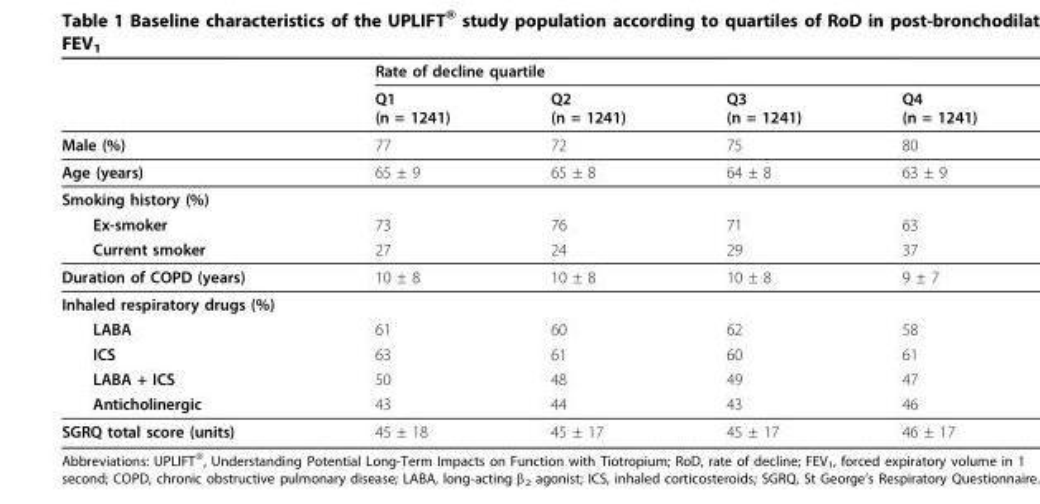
<table><thead><tr><td rowspan="2"></td><td colspan="4">Rate of decline quartile</td></tr><tr><td>Q1 (n = 1241)</td><td>Q2 (n = 1241)</td><td>Q3 (n = 1241)</td><td>Q4 (n = 1241)</td></tr></thead><tbody><tr><td>Male (%)</td><td>77</td><td>72</td><td>75</td><td>80</td></tr><tr><td>Age (years)</td><td>65 ± 9</td><td>65 ± 8</td><td>64 ± 8</td><td>63 ± 9</td></tr><tr><td colspan="5">Smoking history (%)</td></tr><tr><td>Ex-smoker</td><td>73</td><td>76</td><td>71</td><td>63</td></tr><tr><td>Current smoker</td><td>27</td><td>24</td><td>29</td><td>37</td></tr><tr><td>Duration of COPD (years)</td><td>10 ± 8</td><td>10 ± 8</td><td>10 ± 8</td><td>9 ± 7</td></tr><tr><td colspan="5">Inhaled respiratory drugs (%)</td></tr><tr><td>LABA</td><td>61</td><td>60</td><td>62</td><td>58</td></tr><tr><td>ICS</td><td>63</td><td>61</td><td>60</td><td>61</td></tr><tr><td>LABA + ICS</td><td>50</td><td>48</td><td>49</td><td>47</td></tr><tr><td>Anticholinergic</td><td>43</td><td>44</td><td>43</td><td>46</td></tr><tr><td>SGRQ total score (units)</td><td>45 ± 18</td><td>45 ± 17</td><td>45 ± 17</td><td>46 ± 17</td></tr></tbody></table>